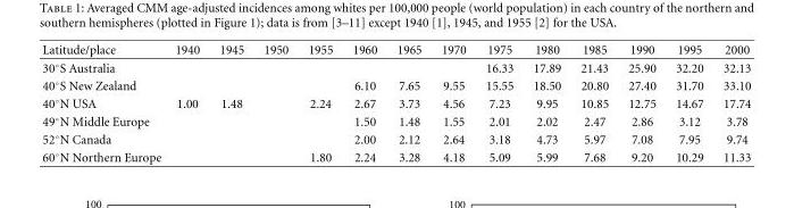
<table><thead><tr><td>Latitude/place</td><td>1940</td><td>1945</td><td>1950</td><td>1955</td><td>1960</td><td>1965</td><td>1970</td><td>1975</td><td>1980</td><td>1985</td><td>1990</td><td>1995</td><td>2000</td></tr></thead><tbody><tr><td>30◦S Australia</td><td></td><td></td><td></td><td></td><td></td><td></td><td></td><td>16.33</td><td>17.89</td><td>21.43</td><td>25.90</td><td>32.20</td><td>32.13</td></tr><tr><td>40◦S New Zealand</td><td></td><td></td><td></td><td></td><td>6.10</td><td>7.65</td><td>9.55</td><td>15.55</td><td>18.50</td><td>20.80</td><td>27.40</td><td>31.70</td><td>33.10</td></tr><tr><td>40◦N USA</td><td>1.00</td><td>1.48</td><td></td><td>2.24</td><td>2.67</td><td>3.73</td><td>4.56</td><td>7.23</td><td>9.95</td><td>10.85</td><td>12.75</td><td>14.67</td><td>17.74</td></tr><tr><td>49◦N Middle Europe</td><td></td><td></td><td></td><td></td><td>1.50</td><td>1.48</td><td>1.55</td><td>2.01</td><td>2.02</td><td>2.47</td><td>2.86</td><td>3.12</td><td>3.78</td></tr><tr><td>52◦N Canada</td><td></td><td></td><td></td><td></td><td>2.00</td><td>2.12</td><td>2.64</td><td>3.18</td><td>4.73</td><td>5.97</td><td>7.08</td><td>7.95</td><td>9.74</td></tr><tr><td>60◦N Northern Europe</td><td></td><td></td><td></td><td>1.80</td><td>2.24</td><td>3.28</td><td>4.18</td><td>5.09</td><td>5.99</td><td>7.68</td><td>9.20</td><td>10.29</td><td>11.33</td></tr></tbody></table>